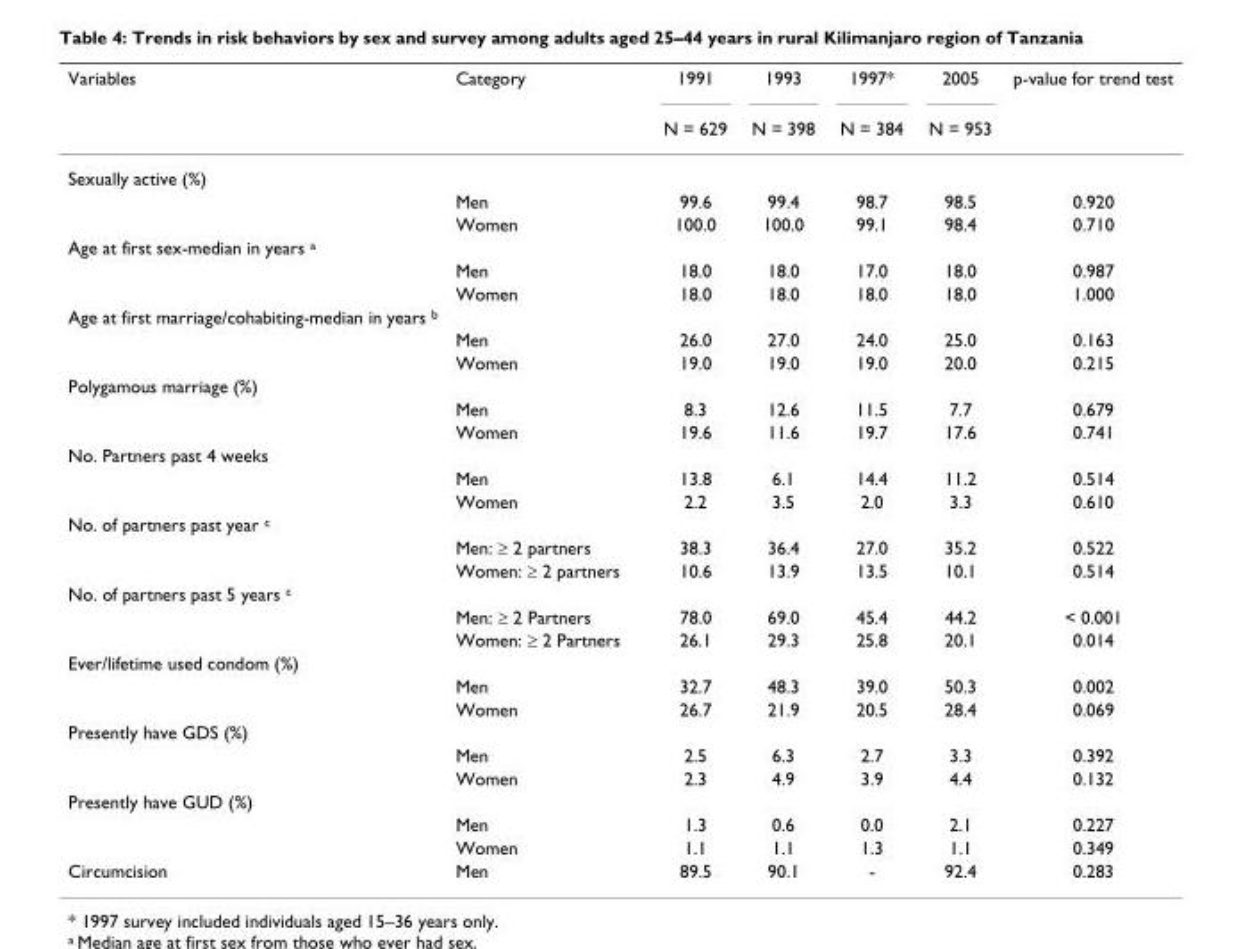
<table><thead><tr><td rowspan="2">Variables</td><td rowspan="2">Category</td><td rowspan="2">1991 N = 629</td><td rowspan="2">1993 N = 398</td><td rowspan="2">1997* N = 384</td><td rowspan="2">2005 N = 953</td><td rowspan="2">p-value for trend test</td></tr><tr></tr></thead><tbody><tr><td colspan="7">Sexually active (%)</td></tr><tr><td></td><td>Men</td><td>99.6</td><td>99.4</td><td>98.7</td><td>98.5</td><td>0.920</td></tr><tr><td></td><td>Women</td><td>100.0</td><td>100.0</td><td>99.1</td><td>98.4</td><td>0.710</td></tr><tr><td colspan="7">Age at first sex-median in years <sup>a</sup></td></tr><tr><td></td><td>Men</td><td>18.0</td><td>18.0</td><td>17.0</td><td>18.0</td><td>0.987</td></tr><tr><td></td><td>Women</td><td>18.0</td><td>18.0</td><td>18.0</td><td>18.0</td><td>1.000</td></tr><tr><td colspan="7">Age at first marriage/cohabiting-median in years <sup>b</sup></td></tr><tr><td></td><td>Men</td><td>26.0</td><td>27.0</td><td>24.0</td><td>25.0</td><td>0.163</td></tr><tr><td></td><td>Women</td><td>19.0</td><td>19.0</td><td>19.0</td><td>20.0</td><td>0.215</td></tr><tr><td colspan="7">Polygamous marriage (%)</td></tr><tr><td></td><td>Men</td><td>8.3</td><td>12.6</td><td>11.5</td><td>7.7</td><td>0.679</td></tr><tr><td></td><td>Women</td><td>19.6</td><td>11.6</td><td>19.7</td><td>17.6</td><td>0.741</td></tr><tr><td colspan="7">No. Partners past 4 weeks</td></tr><tr><td></td><td>Men</td><td>13.8</td><td>6.1</td><td>14.4</td><td>11.2</td><td>0.514</td></tr><tr><td></td><td>Women</td><td>2.2</td><td>3.5</td><td>2.0</td><td>3.3</td><td>0.610</td></tr><tr><td colspan="7">No. of partners past year <sup>c</sup></td></tr><tr><td></td><td>Men: ≥ 2 partners</td><td>38.3</td><td>36.4</td><td>27.0</td><td>35.2</td><td>0.522</td></tr><tr><td></td><td>Women: ≥ 2 partners</td><td>10.6</td><td>13.9</td><td>13.5</td><td>10.1</td><td>0.514</td></tr><tr><td colspan="7">No. of partners past 5 years <sup>c</sup></td></tr><tr><td></td><td>Men: ≥ 2 Partners</td><td>78.0</td><td>69.0</td><td>45.4</td><td>44.2</td><td>&lt; 0.001</td></tr><tr><td></td><td>Women: ≥ 2 Partners</td><td>26.1</td><td>29.3</td><td>25.8</td><td>20.1</td><td>0.014</td></tr><tr><td colspan="7">Ever/lifetime used condom (%)</td></tr><tr><td></td><td>Men</td><td>32.7</td><td>48.3</td><td>39.0</td><td>50.3</td><td>0.002</td></tr><tr><td></td><td>Women</td><td>26.7</td><td>21.9</td><td>20.5</td><td>28.4</td><td>0.069</td></tr><tr><td colspan="7">Presently have GDS (%)</td></tr><tr><td></td><td>Men</td><td>2.5</td><td>6.3</td><td>2.7</td><td>3.3</td><td>0.392</td></tr><tr><td></td><td>Women</td><td>2.3</td><td>4.9</td><td>3.9</td><td>4.4</td><td>0.132</td></tr><tr><td colspan="7">Presently have GUD (%)</td></tr><tr><td></td><td>Men</td><td>1.3</td><td>0.6</td><td>0.0</td><td>2.1</td><td>0.227</td></tr><tr><td></td><td>Women</td><td>1.1</td><td>1.1</td><td>1.3</td><td>1.1</td><td>0.349</td></tr><tr><td>Circumcision</td><td>Men</td><td>89.5</td><td>90.1</td><td>-</td><td>92.4</td><td>0.283</td></tr></tbody></table>